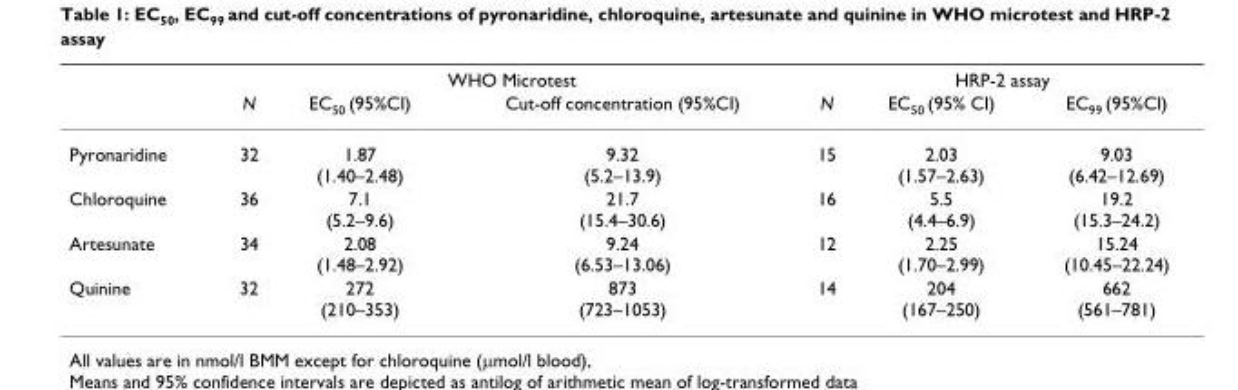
<table><thead><tr><td rowspan="2"></td><td colspan="3">WHO Microtest</td><td colspan="3">HRP-2 assay</td></tr><tr><td>N</td><td>EC<sub>50</sub> (95%CI)</td><td>Cut-off concentration (95%CI)</td><td>N</td><td>EC<sub>50</sub> (95% CI)</td><td>EC<sub>99</sub> (95%CI)</td></tr></thead><tbody><tr><td>Pyronaridine</td><td>32</td><td>1.87 (1.40–2.48)</td><td>9.32 (5.2–13.9)</td><td>15</td><td>2.03 (1.57–2.63)</td><td>9.03 (6.42–12.69)</td></tr><tr><td>Chloroquine</td><td>36</td><td>7.1 (5.2–9.6)</td><td>21.7 (15.4–30.6)</td><td>16</td><td>5.5 (4.4–6.9)</td><td>19.2 (15.3–24.2)</td></tr><tr><td>Artesunate</td><td>34</td><td>2.08 (1.48–2.92)</td><td>9.24 (6.53–13.06)</td><td>12</td><td>2.25 (1.70–2.99)</td><td>15.24 (10.45–22.24)</td></tr><tr><td>Quinine</td><td>32</td><td>272 (210–353)</td><td>873 (723–1053)</td><td>14</td><td>204 (167–250)</td><td>662 (561–781)</td></tr></tbody></table>